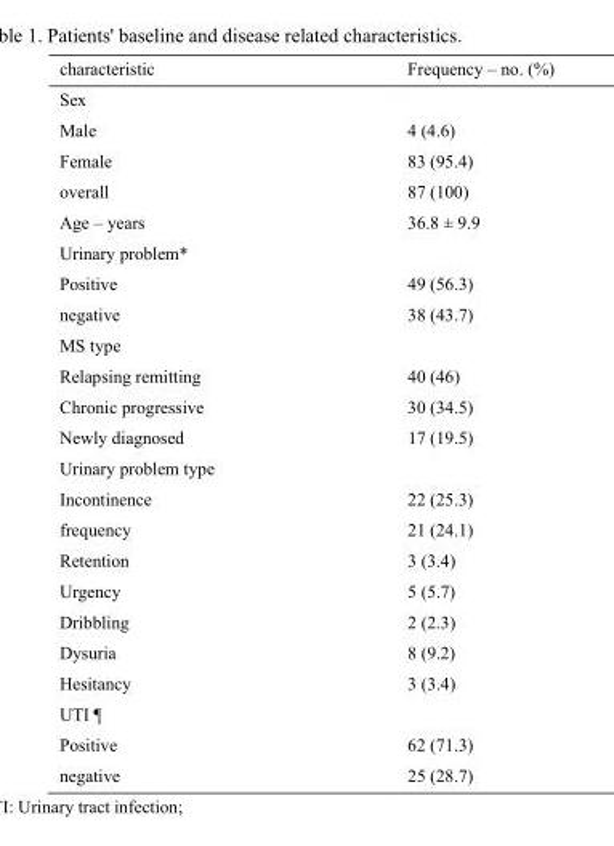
<table><thead><tr><td>characteristic</td><td>Frequency – no. (%)</td></tr></thead><tbody><tr><td colspan="2">Sex</td></tr><tr><td>Male</td><td>4 (4.6)</td></tr><tr><td>Female</td><td>83 (95.4)</td></tr><tr><td>overall</td><td>87 (100)</td></tr><tr><td>Age – years</td><td>36.8 ± 9.9</td></tr><tr><td colspan="2">Urinary problem*</td></tr><tr><td>Positive</td><td>49 (56.3)</td></tr><tr><td>negative</td><td>38 (43.7)</td></tr><tr><td colspan="2">MS type</td></tr><tr><td>Relapsing remitting</td><td>40 (46)</td></tr><tr><td>Chronic progressive</td><td>30 (34.5)</td></tr><tr><td>Newly diagnosed</td><td>17 (19.5)</td></tr><tr><td colspan="2">Urinary problem type</td></tr><tr><td>Incontinence</td><td>22 (25.3)</td></tr><tr><td>frequency</td><td>21 (24.1)</td></tr><tr><td>Retention</td><td>3 (3.4)</td></tr><tr><td>Urgency</td><td>5 (5.7)</td></tr><tr><td>Dribbling</td><td>2 (2.3)</td></tr><tr><td>Dysuria</td><td>8 (9.2)</td></tr><tr><td>Hesitancy</td><td>3 (3.4)</td></tr><tr><td colspan="2">UTI ¶</td></tr><tr><td>Positive</td><td>62 (71.3)</td></tr><tr><td>negative</td><td>25 (28.7)</td></tr></tbody></table>